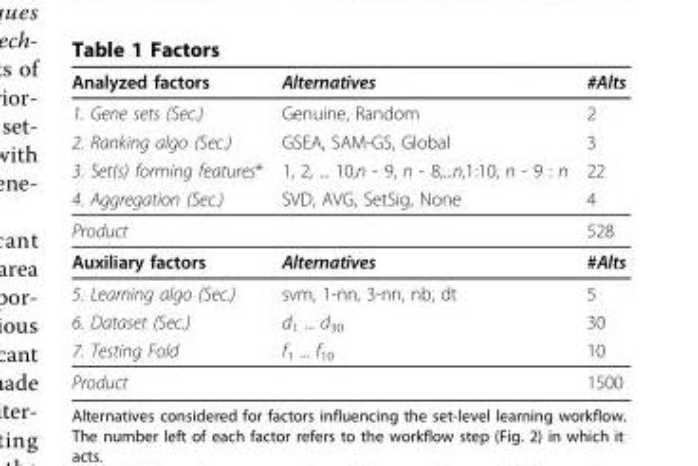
<table><thead><tr><td>Analyzed factors</td><td>Alternatives</td><td>#Alts</td></tr></thead><tbody><tr><td>1. Gene sets (Sec.)</td><td>Genuine, Random</td><td>2</td></tr><tr><td>2. Ranking algo (Sec.)</td><td>GSEA, SAM-GS, Global</td><td>3</td></tr><tr><td>3. Set(s) forming features*</td><td>1, 2, ... 10,n - 9, n - 8,...n,1:10, n - 9 : n</td><td>22</td></tr><tr><td>4. Aggregation (Sec.)</td><td>SVD, AVG, SetSig, None</td><td>4</td></tr><tr><td>Product</td><td></td><td>528</td></tr><tr><td>Auxiliary factors</td><td>Alternatives</td><td>#Alts</td></tr><tr><td>5. Learning algo (Sec.)</td><td>svm, 1-nn, 3-nn, nb, dt</td><td>5</td></tr><tr><td>6. Dataset (Sec.)</td><td>d<sub>1</sub> ... d<sub>30</sub></td><td>30</td></tr><tr><td>7. Testing Fold</td><td>f<sub>1</sub> ... f<sub>10</sub></td><td>10</td></tr><tr><td>Product</td><td></td><td>1500</td></tr></tbody></table>